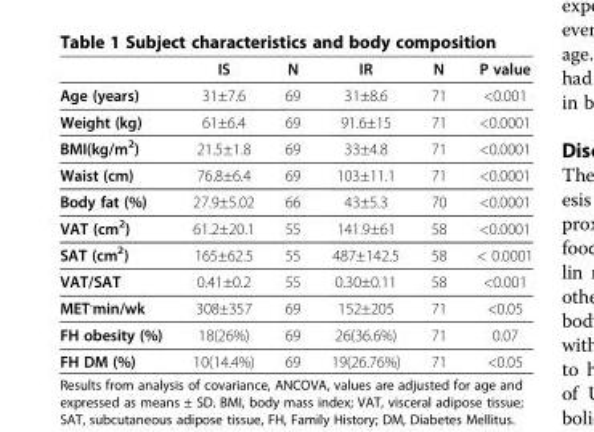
<table><thead><tr><td></td><td>IS</td><td>N</td><td>IR</td><td>N</td><td>P value</td></tr></thead><tbody><tr><td>Age (years)</td><td>31±7.6</td><td>69</td><td>31±8.6</td><td>71</td><td>&lt;0.001</td></tr><tr><td>Weight (kg)</td><td>61±6.4</td><td>69</td><td>91.6±15</td><td>71</td><td>&lt;0.0001</td></tr><tr><td>BMI(kg/m<sup>2</sup>)</td><td>21.5±1.8</td><td>69</td><td>33±4.8</td><td>71</td><td>&lt;0.0001</td></tr><tr><td>Waist (cm)</td><td>76.8±6.4</td><td>69</td><td>103±11.1</td><td>71</td><td>&lt;0.0001</td></tr><tr><td>Body fat (%)</td><td>27.9±5.02</td><td>66</td><td>43±5.3</td><td>70</td><td>&lt;0.0001</td></tr><tr><td>VAT (cm<sup>2</sup>)</td><td>61.2±20.1</td><td>55</td><td>141.9±61</td><td>58</td><td>&lt;0.0001</td></tr><tr><td>SAT (cm<sup>2</sup>)</td><td>165±62.5</td><td>55</td><td>487±142.5</td><td>58</td><td>&lt; 0.0001</td></tr><tr><td>VAT/SAT</td><td>0.41±0.2</td><td>55</td><td>0.30±0.11</td><td>58</td><td>&lt;0.001</td></tr><tr><td>MET<sup>.</sup>min/wk</td><td>308±357</td><td>69</td><td>152±205</td><td>71</td><td>&lt;0.05</td></tr><tr><td>FH obesity (%)</td><td>18(26%)</td><td>69</td><td>26(36.6%)</td><td>71</td><td>0.07</td></tr><tr><td>FH DM (%)</td><td>10(14.4%)</td><td>69</td><td>19(26.76%)</td><td>71</td><td>&lt;0.05</td></tr></tbody></table>